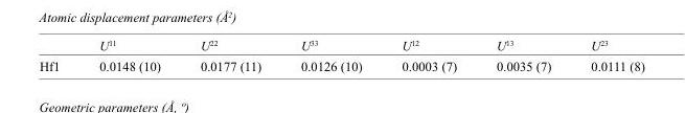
<table><thead><tr><td></td><td>U<sup>11</sup></td><td>U<sup>22</sup></td><td>U<sup>33</sup></td><td>U<sup>12</sup></td><td>U<sup>13</sup></td><td>U<sup>23</sup></td></tr></thead><tbody><tr><td>Hf1</td><td>0.0148 (10)</td><td>0.0177 (11)</td><td>0.0126 (10)</td><td>0.0003 (7)</td><td>0.0035 (7)</td><td>0.0111 (8)</td></tr></tbody></table>